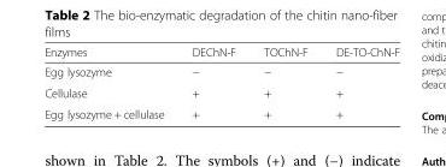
<table><thead><tr><td>Enzymes</td><td>DEChN-F</td><td>TOChN-F</td><td>DE-TO-ChN-F</td></tr></thead><tbody><tr><td>Egg lysozyme</td><td>−</td><td>−</td><td>−</td></tr><tr><td>Cellulase</td><td>+</td><td>+</td><td>+</td></tr><tr><td>Egg lysozyme + cellulase</td><td>+</td><td>+</td><td>+</td></tr></tbody></table>